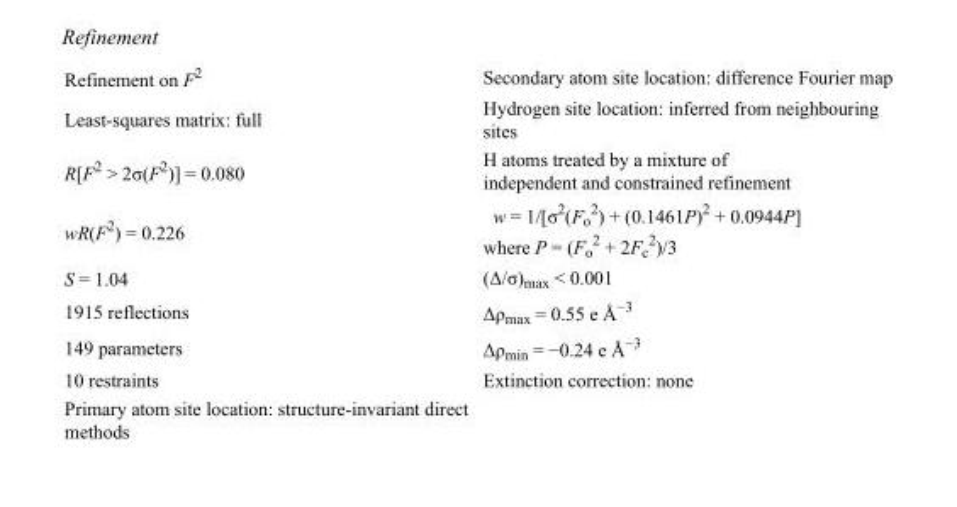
<table><tbody><tr><td>Refinement on F<sup>2</sup></td><td>Secondary atom site location: difference Fourier map</td></tr><tr><td>Least-squares matrix: full</td><td>Hydrogen site location: inferred from neighbouring sites</td></tr><tr><td>R[F<sup>2</sup> &gt; 2σ(F<sup>2</sup>)] = 0.080</td><td>H atoms treated by a mixture of independent and constrained refinement</td></tr><tr><td>wR(F<sup>2</sup>) = 0.226</td><td>w = 1/[σ<sup>2</sup>(F<sub>o</sub> <sup>2</sup>) + (0.1461P)<sup>2</sup> + 0.0944P] where P = (F<sub>o</sub> <sup>2</sup> + 2F<sub>c</sub> <sup>2</sup>)/3</td></tr><tr><td>S = 1.04</td><td>(Δ/σ)<sub>max</sub> &lt; 0.001</td></tr><tr><td>1915 reflections</td><td>Δρ<sub>max</sub> = 0.55 e Å<sup>−3</sup></td></tr><tr><td>149 parameters</td><td>Δρ<sub>min</sub> = −0.24 e Å<sup>−3</sup></td></tr><tr><td>10 restraints</td><td>Extinction correction: none</td></tr><tr><td>Primary atom site location: structure-invariant direct methods</td><td></td></tr></tbody></table>